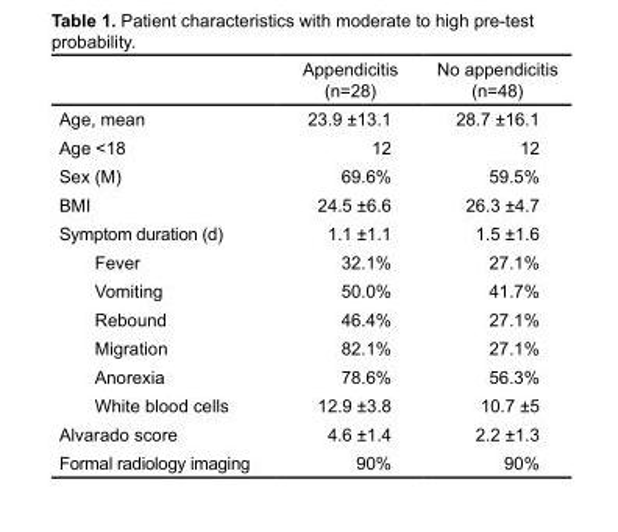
<table><thead><tr><td></td><td>Appendicitis (n=28)</td><td>No appendicitis (n=48)</td></tr></thead><tbody><tr><td>Age, mean</td><td>23.9 ±13.1</td><td>28.7 ±16.1</td></tr><tr><td>Age &lt;18</td><td>12</td><td>12</td></tr><tr><td>Sex (M)</td><td>69.6%</td><td>59.5%</td></tr><tr><td>BMI</td><td>24.5 ±6.6</td><td>26.3 ±4.7</td></tr><tr><td>Symptom duration (d)</td><td>1.1 ±1.1</td><td>1.5 ±1.6</td></tr><tr><td>Fever</td><td>32.1%</td><td>27.1%</td></tr><tr><td>Vomiting</td><td>50.0%</td><td>41.7%</td></tr><tr><td>Rebound</td><td>46.4%</td><td>27.1%</td></tr><tr><td>Migration</td><td>82.1%</td><td>27.1%</td></tr><tr><td>Anorexia</td><td>78.6%</td><td>56.3%</td></tr><tr><td>White blood cells</td><td>12.9 ±3.8</td><td>10.7 ±5</td></tr><tr><td>Alvarado score</td><td>4.6 ±1.4</td><td>2.2 ±1.3</td></tr><tr><td>Formal radiology imaging</td><td>90%</td><td>90%</td></tr></tbody></table>